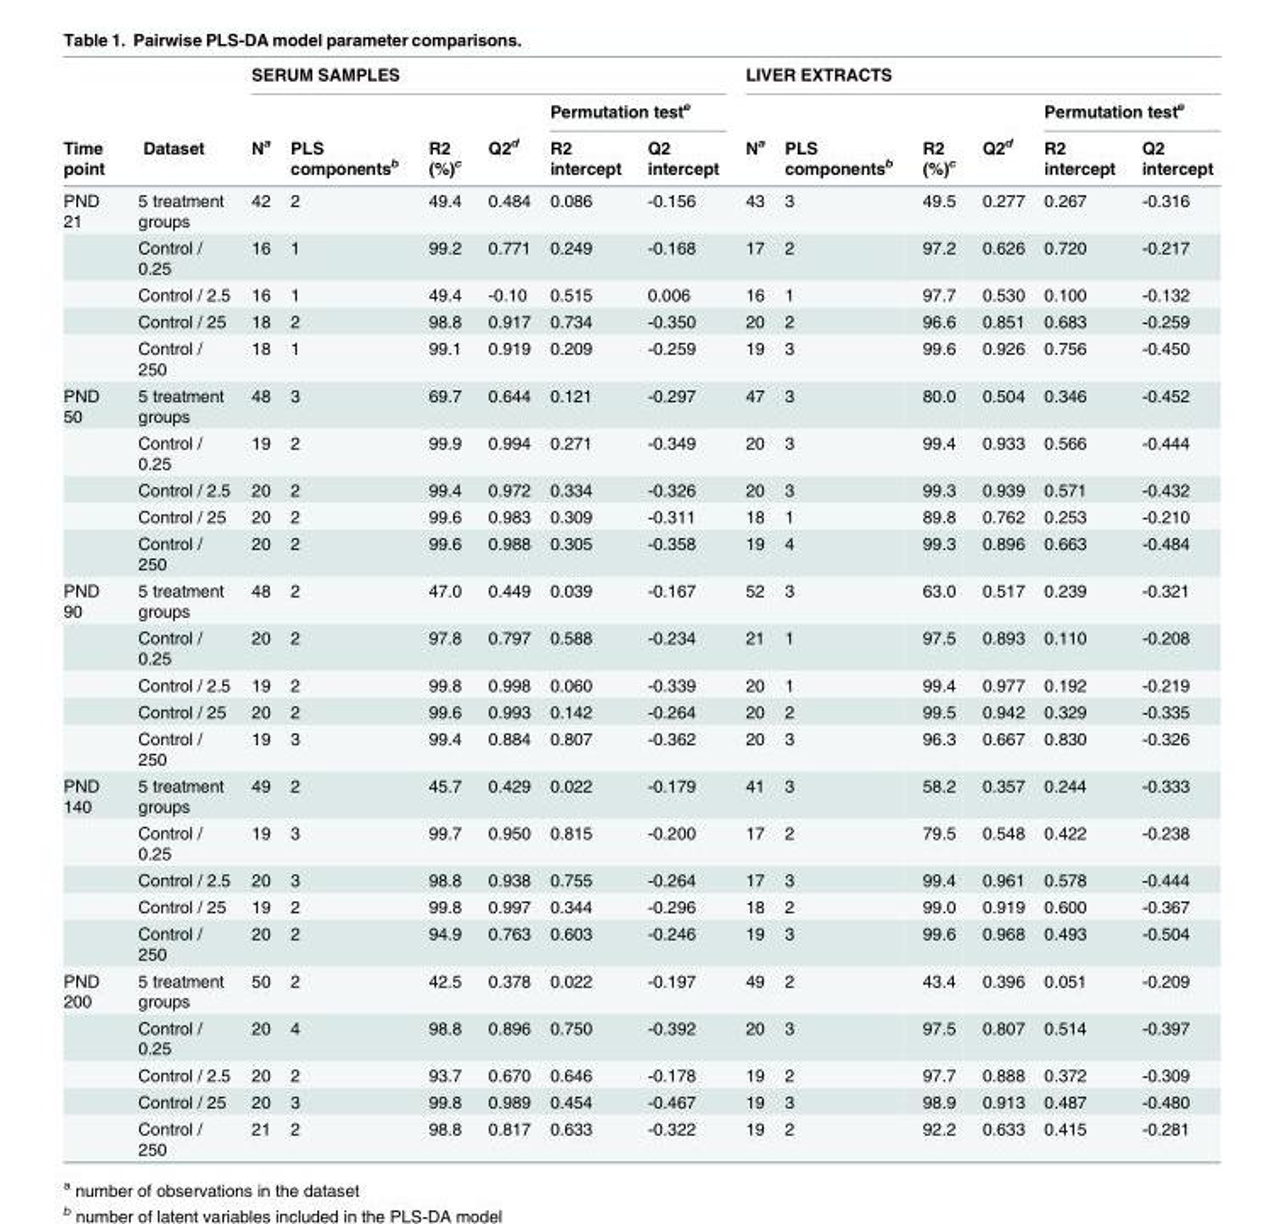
<table><thead><tr><td rowspan="3">Time point</td><td rowspan="3">Dataset</td><td colspan="6">SERUM SAMPLES</td><td colspan="6">LIVER EXTRACTS</td></tr><tr><td rowspan="2">N<sup>a</sup></td><td rowspan="2">PLS components<sup>b</sup></td><td rowspan="2">R2 (%)<sup>c</sup></td><td rowspan="2">Q2<sup>d</sup></td><td colspan="2">Permutation test<sup>e</sup></td><td rowspan="2">N<sup>a</sup></td><td rowspan="2">PLS components<sup>b</sup></td><td rowspan="2">R2 (%)<sup>c</sup></td><td rowspan="2">Q2<sup>d</sup></td><td colspan="2">Permutation test<sup>e</sup></td></tr><tr><td>R2 intercept</td><td>Q2 intercept</td><td>R2 intercept</td><td>Q2 intercept</td></tr></thead><tbody><tr><td rowspan="5">PND 21</td><td>5 treatment groups</td><td>42</td><td>2</td><td>49.4</td><td>0.484</td><td>0.086</td><td>-0.156</td><td>43</td><td>3</td><td>49.5</td><td>0.277</td><td>0.267</td><td>-0.316</td></tr><tr><td>Control / 0.25</td><td>16</td><td>1</td><td>99.2</td><td>0.771</td><td>0.249</td><td>-0.168</td><td>17</td><td>2</td><td>97.2</td><td>0.626</td><td>0.720</td><td>-0.217</td></tr><tr><td>Control / 2.5</td><td>16</td><td>1</td><td>49.4</td><td>-0.10</td><td>0.515</td><td>0.006</td><td>16</td><td>1</td><td>97.7</td><td>0.530</td><td>0.100</td><td>-0.132</td></tr><tr><td>Control / 25</td><td>18</td><td>2</td><td>98.8</td><td>0.917</td><td>0.734</td><td>-0.350</td><td>20</td><td>2</td><td>96.6</td><td>0.851</td><td>0.683</td><td>-0.259</td></tr><tr><td>Control / 250</td><td>18</td><td>1</td><td>99.1</td><td>0.919</td><td>0.209</td><td>-0.259</td><td>19</td><td>3</td><td>99.6</td><td>0.926</td><td>0.756</td><td>-0.450</td></tr><tr><td rowspan="5">PND 50</td><td>5 treatment groups</td><td>48</td><td>3</td><td>69.7</td><td>0.644</td><td>0.121</td><td>-0.297</td><td>47</td><td>3</td><td>80.0</td><td>0.504</td><td>0.346</td><td>-0.452</td></tr><tr><td>Control / 0.25</td><td>19</td><td>2</td><td>99.9</td><td>0.994</td><td>0.271</td><td>-0.349</td><td>20</td><td>3</td><td>99.4</td><td>0.933</td><td>0.566</td><td>-0.444</td></tr><tr><td>Control / 2.5</td><td>20</td><td>2</td><td>99.4</td><td>0.972</td><td>0.334</td><td>-0.326</td><td>20</td><td>3</td><td>99.3</td><td>0.939</td><td>0.571</td><td>-0.432</td></tr><tr><td>Control / 25</td><td>20</td><td>2</td><td>99.6</td><td>0.983</td><td>0.309</td><td>-0.311</td><td>18</td><td>1</td><td>89.8</td><td>0.762</td><td>0.253</td><td>-0.210</td></tr><tr><td>Control / 250</td><td>20</td><td>2</td><td>99.6</td><td>0.988</td><td>0.305</td><td>-0.358</td><td>19</td><td>4</td><td>99.3</td><td>0.896</td><td>0.663</td><td>-0.484</td></tr><tr><td rowspan="5">PND 90</td><td>5 treatment groups</td><td>48</td><td>2</td><td>47.0</td><td>0.449</td><td>0.039</td><td>-0.167</td><td>52</td><td>3</td><td>63.0</td><td>0.517</td><td>0.239</td><td>-0.321</td></tr><tr><td>Control / 0.25</td><td>20</td><td>2</td><td>97.8</td><td>0.797</td><td>0.588</td><td>-0.234</td><td>21</td><td>1</td><td>97.5</td><td>0.893</td><td>0.110</td><td>-0.208</td></tr><tr><td>Control / 2.5</td><td>19</td><td>2</td><td>99.8</td><td>0.998</td><td>0.060</td><td>-0.339</td><td>20</td><td>1</td><td>99.4</td><td>0.977</td><td>0.192</td><td>-0.219</td></tr><tr><td>Control / 25</td><td>20</td><td>2</td><td>99.6</td><td>0.993</td><td>0.142</td><td>-0.264</td><td>20</td><td>2</td><td>99.5</td><td>0.942</td><td>0.329</td><td>-0.335</td></tr><tr><td>Control / 250</td><td>19</td><td>3</td><td>99.4</td><td>0.884</td><td>0.807</td><td>-0.362</td><td>20</td><td>3</td><td>96.3</td><td>0.667</td><td>0.830</td><td>-0.326</td></tr><tr><td rowspan="5">PND 140</td><td>5 treatment groups</td><td>49</td><td>2</td><td>45.7</td><td>0.429</td><td>0.022</td><td>-0.179</td><td>41</td><td>3</td><td>58.2</td><td>0.357</td><td>0.244</td><td>-0.333</td></tr><tr><td>Control / 0.25</td><td>19</td><td>3</td><td>99.7</td><td>0.950</td><td>0.815</td><td>-0.200</td><td>17</td><td>2</td><td>79.5</td><td>0.548</td><td>0.422</td><td>-0.238</td></tr><tr><td>Control / 2.5</td><td>20</td><td>3</td><td>98.8</td><td>0.938</td><td>0.755</td><td>-0.264</td><td>17</td><td>3</td><td>99.4</td><td>0.961</td><td>0.578</td><td>-0.444</td></tr><tr><td>Control / 25</td><td>19</td><td>2</td><td>99.8</td><td>0.997</td><td>0.344</td><td>-0.296</td><td>18</td><td>2</td><td>99.0</td><td>0.919</td><td>0.600</td><td>-0.367</td></tr><tr><td>Control / 250</td><td>20</td><td>2</td><td>94.9</td><td>0.763</td><td>0.603</td><td>-0.246</td><td>19</td><td>3</td><td>99.6</td><td>0.968</td><td>0.493</td><td>-0.504</td></tr><tr><td rowspan="5">PND 200</td><td>5 treatment groups</td><td>50</td><td>2</td><td>42.5</td><td>0.378</td><td>0.022</td><td>-0.197</td><td>49</td><td>2</td><td>43.4</td><td>0.396</td><td>0.051</td><td>-0.209</td></tr><tr><td>Control / 0.25</td><td>20</td><td>4</td><td>98.8</td><td>0.896</td><td>0.750</td><td>-0.392</td><td>20</td><td>3</td><td>97.5</td><td>0.807</td><td>0.514</td><td>-0.397</td></tr><tr><td>Control / 2.5</td><td>20</td><td>2</td><td>93.7</td><td>0.670</td><td>0.646</td><td>-0.178</td><td>19</td><td>2</td><td>97.7</td><td>0.888</td><td>0.372</td><td>-0.309</td></tr><tr><td>Control / 25</td><td>20</td><td>3</td><td>99.8</td><td>0.989</td><td>0.454</td><td>-0.467</td><td>19</td><td>3</td><td>98.9</td><td>0.913</td><td>0.487</td><td>-0.480</td></tr><tr><td>Control / 250</td><td>21</td><td>2</td><td>98.8</td><td>0.817</td><td>0.633</td><td>-0.322</td><td>19</td><td>2</td><td>92.2</td><td>0.633</td><td>0.415</td><td>-0.281</td></tr></tbody></table>